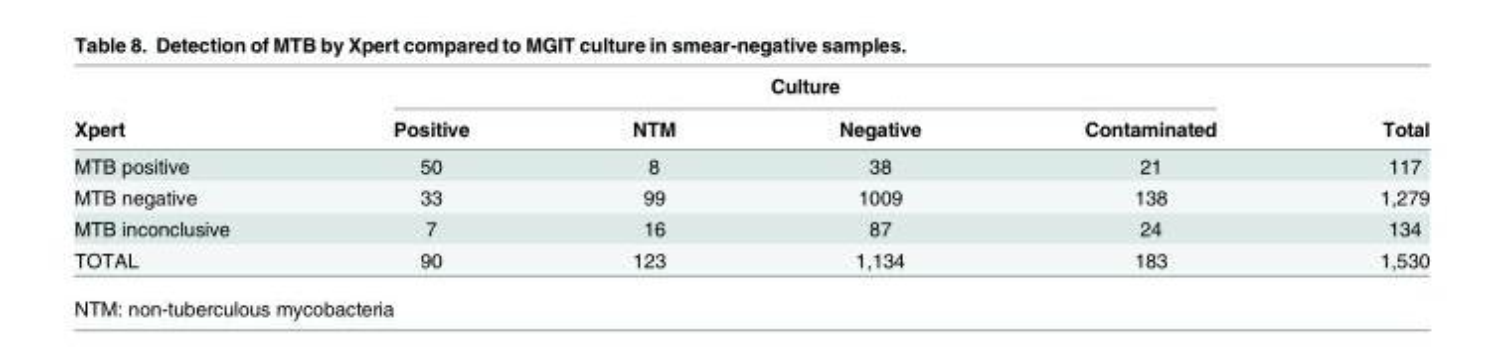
<table><thead><tr><td rowspan="2">Xpert</td><td colspan="4">Culture</td><td rowspan="2">Total</td></tr><tr><td>Positive</td><td>NTM</td><td>Negative</td><td>Contaminated</td></tr></thead><tbody><tr><td>MTB positive</td><td>50</td><td>8</td><td>38</td><td>21</td><td>117</td></tr><tr><td>MTB negative</td><td>33</td><td>99</td><td>1009</td><td>138</td><td>1,279</td></tr><tr><td>MTB inconclusive</td><td>7</td><td>16</td><td>87</td><td>24</td><td>134</td></tr><tr><td>TOTAL</td><td>90</td><td>123</td><td>1,134</td><td>183</td><td>1,530</td></tr></tbody></table>